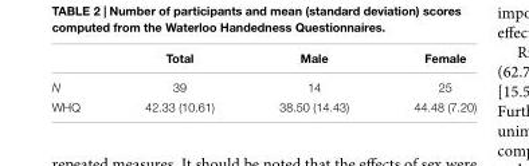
<table><thead><tr><td></td><td>Total</td><td>Male</td><td>Female</td></tr></thead><tbody><tr><td>N</td><td>39</td><td>14</td><td>25</td></tr><tr><td>WHQ</td><td>42.33 (10.61)</td><td>38.50 (14.43)</td><td>44.48 (7.20)</td></tr></tbody></table>